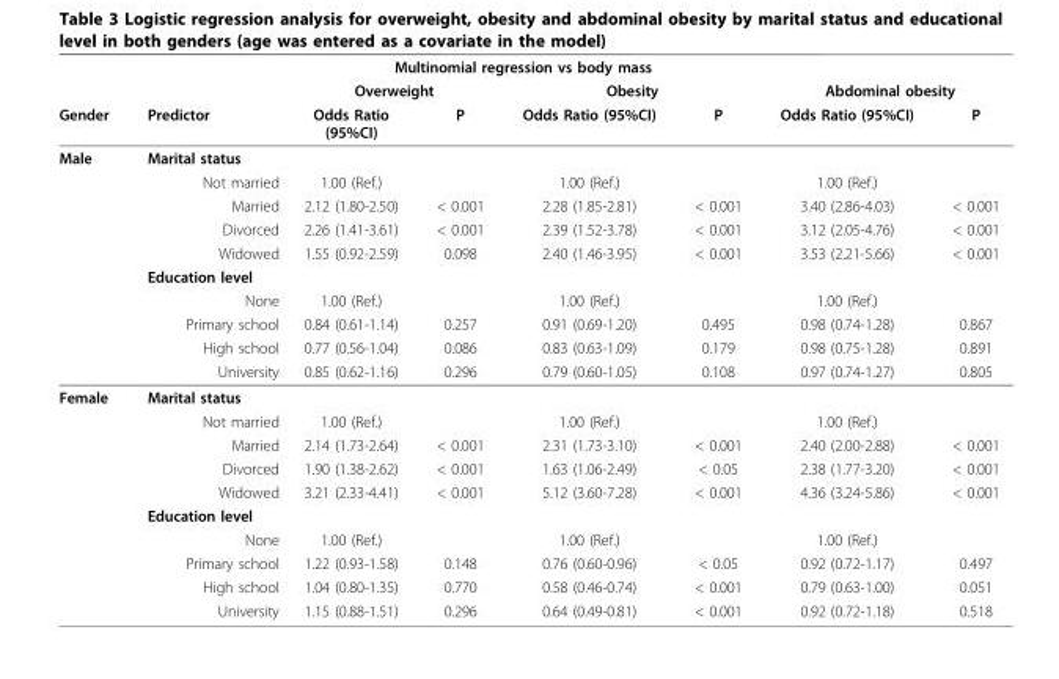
<table><thead><tr><td rowspan="3">Gender</td><td rowspan="3">Predictor</td><td colspan="4">Multinomial regression vs body mass</td><td></td><td></td></tr><tr><td colspan="2">Overweight</td><td colspan="2">Obesity</td><td colspan="2">Abdominal obesity</td></tr><tr><td>Odds Ratio (95%CI)</td><td>P</td><td>Odds Ratio (95%CI)</td><td>P</td><td>Odds Ratio (95%CI)</td><td>P</td></tr></thead><tbody><tr><td rowspan="10">Male</td><td>Marital status</td><td></td><td></td><td></td><td></td><td></td><td></td></tr><tr><td>Not married</td><td>1.00 (Ref.)</td><td></td><td>1.00 (Ref.)</td><td></td><td>1.00 (Ref.)</td><td></td></tr><tr><td>Married</td><td>2.12 (1.80-2.50)</td><td>&lt; 0.001</td><td>2.28 (1.85-2.81)</td><td>&lt; 0.001</td><td>3.40 (2.86-4.03)</td><td>&lt; 0.001</td></tr><tr><td>Divorced</td><td>2.26 (1.41-3.61)</td><td>&lt; 0.001</td><td>2.39 (1.52-3.78)</td><td>&lt; 0.001</td><td>3.12 (2.05-4.76)</td><td>&lt; 0.001</td></tr><tr><td>Widowed</td><td>1.55 (0.92-2.59)</td><td>0.098</td><td>2.40 (1.46-3.95)</td><td>&lt; 0.001</td><td>3.53 (2.21-5.66)</td><td>&lt; 0.001</td></tr><tr><td>Education level</td><td></td><td></td><td></td><td></td><td></td><td></td></tr><tr><td>None</td><td>1.00 (Ref.)</td><td></td><td>1.00 (Ref.)</td><td></td><td>1.00 (Ref.)</td><td></td></tr><tr><td>Primary school</td><td>0.84 (0.61-1.14)</td><td>0.257</td><td>0.91 (0.69-1.20)</td><td>0.495</td><td>0.98 (0.74-1.28)</td><td>0.867</td></tr><tr><td>High school</td><td>0.77 (0.56-1.04)</td><td>0.086</td><td>0.83 (0.63-1.09)</td><td>0.179</td><td>0.98 (0.75-1.28)</td><td>0.891</td></tr><tr><td>University</td><td>0.85 (0.62-1.16)</td><td>0.296</td><td>0.79 (0.60-1.05)</td><td>0.108</td><td>0.97 (0.74-1.27)</td><td>0.805</td></tr><tr><td rowspan="10">Female</td><td>Marital status</td><td></td><td></td><td></td><td></td><td></td><td></td></tr><tr><td>Not married</td><td>1.00 (Ref.)</td><td></td><td>1.00 (Ref.)</td><td></td><td>1.00 (Ref.)</td><td></td></tr><tr><td>Married</td><td>2.14 (1.73-2.64)</td><td>&lt; 0.001</td><td>2.31 (1.73-3.10)</td><td>&lt; 0.001</td><td>2.40 (2.00-2.88)</td><td>&lt; 0.001</td></tr><tr><td>Divorced</td><td>1.90 (1.38-2.62)</td><td>&lt; 0.001</td><td>1.63 (1.06-2.49)</td><td>&lt; 0.05</td><td>2.38 (1.77-3.20)</td><td>&lt; 0.001</td></tr><tr><td>Widowed</td><td>3.21 (2.33-4.41)</td><td>&lt; 0.001</td><td>5.12 (3.60-7.28)</td><td>&lt; 0.001</td><td>4.36 (3.24-5.86)</td><td>&lt; 0.001</td></tr><tr><td>Education level</td><td></td><td></td><td></td><td></td><td></td><td></td></tr><tr><td>None</td><td>1.00 (Ref.)</td><td></td><td>1.00 (Ref.)</td><td></td><td>1.00 (Ref.)</td><td></td></tr><tr><td>Primary school</td><td>1.22 (0.93-1.58)</td><td>0.148</td><td>0.76 (0.60-0.96)</td><td>&lt; 0.05</td><td>0.92 (0.72-1.17)</td><td>0.497</td></tr><tr><td>High school</td><td>1.04 (0.80-1.35)</td><td>0.770</td><td>0.58 (0.46-0.74)</td><td>&lt; 0.001</td><td>0.79 (0.63-1.00)</td><td>0.051</td></tr><tr><td>University</td><td>1.15 (0.88-1.51)</td><td>0.296</td><td>0.64 (0.49-0.81)</td><td>&lt; 0.001</td><td>0.92 (0.72-1.18)</td><td>0.518</td></tr></tbody></table>